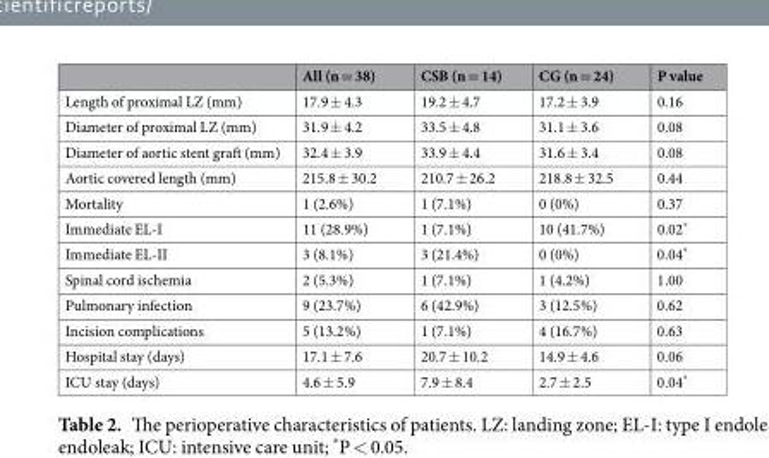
<table><thead><tr><td></td><td>All (n = 38)</td><td>CSB (n = 14)</td><td>CG (n = 24)</td><td>P value</td></tr></thead><tbody><tr><td>Length of proximal LZ (mm)</td><td>17.9 ± 4.3</td><td>19.2 ± 4.7</td><td>17.2 ± 3.9</td><td>0.16</td></tr><tr><td>Diameter of proximal LZ (mm)</td><td>31.9 ± 4.2</td><td>33.5 ± 4.8</td><td>31.1 ± 3.6</td><td>0.08</td></tr><tr><td>Diameter of aortic stent graft (mm)</td><td>32.4 ± 3.9</td><td>33.9 ± 4.4</td><td>31.6 ± 3.4</td><td>0.08</td></tr><tr><td>Aortic covered length (mm)</td><td>215.8 ± 30.2</td><td>210.7 ± 26.2</td><td>218.8 ± 32.5</td><td>0.44</td></tr><tr><td>Mortality</td><td>1 (2.6%)</td><td>1 (7.1%)</td><td>0 (0%)</td><td>0.37</td></tr><tr><td>Immediate EL-I</td><td>11 (28.9%)</td><td>1 (7.1%)</td><td>10 (41.7%)</td><td>0.02*</td></tr><tr><td>Immediate EL-II</td><td>3 (8.1%)</td><td>3 (21.4%)</td><td>0 (0%)</td><td>0.04*</td></tr><tr><td>Spinal cord ischemia</td><td>2 (5.3%)</td><td>1 (7.1%)</td><td>1 (4.2%)</td><td>1.00</td></tr><tr><td>Pulmonary infection</td><td>9 (23.7%)</td><td>6 (42.9%)</td><td>3 (12.5%)</td><td>0.62</td></tr><tr><td>Incision complications</td><td>5 (13.2%)</td><td>1 (7.1%)</td><td>4 (16.7%)</td><td>0.63</td></tr><tr><td>Hospital stay (days)</td><td>17.1 ± 7.6</td><td>20.7 ± 10.2</td><td>14.9 ± 4.6</td><td>0.06</td></tr><tr><td>ICU stay (days)</td><td>4.6 ± 5.9</td><td>7.9 ± 8.4</td><td>2.7 ± 2.5</td><td>0.04*</td></tr></tbody></table>